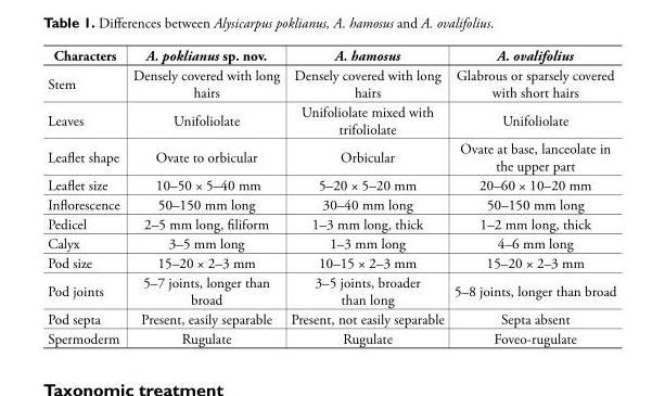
<table><thead><tr><td>Characters</td><td>A. poklianus sp. nov.</td><td>A. hamosus</td><td>A. ovalifolius</td></tr></thead><tbody><tr><td>Stem</td><td>Densely covered with long hairs</td><td>Densely covered with long hairs</td><td>Glabrous or sparsely covered with short hairs</td></tr><tr><td>Leaves</td><td>Unifoliolate</td><td>Unifoliolate mixed with trifoliolate</td><td>Unifoliolate</td></tr><tr><td>Leafl et shape</td><td>Ovate to orbicular</td><td>Orbicular</td><td>Ovate at base, lanceolate in the upper part</td></tr><tr><td>Leafl et size</td><td>10–50 × 5–40 mm</td><td>5–20 × 5–20 mm</td><td>20–60 × 10–20 mm</td></tr><tr><td>Infl orescence</td><td>50–150 mm long</td><td>30–40 mm long</td><td>50–150 mm long</td></tr><tr><td>Pedicel</td><td>2–5 mm long, fi liform</td><td>1–3 mm long, thick</td><td>1–2 mm long, thick</td></tr><tr><td>Calyx</td><td>3–5 mm long</td><td>1–3 mm long</td><td>4–6 mm long</td></tr><tr><td>Pod size</td><td>15–20 × 2–3 mm</td><td>10–15 × 2–3 mm</td><td>15–20 × 2–3 mm</td></tr><tr><td>Pod joints</td><td>5–7 joints, longer than broad</td><td>3–5 joints, broader than long</td><td>5–8 joints, longer than broad</td></tr><tr><td>Pod septa</td><td>Present, easily separable</td><td>Present, not easily separable</td><td>Septa absent</td></tr><tr><td>Spermoderm</td><td>Rugulate</td><td>Rugulate</td><td>Foveo-rugulate</td></tr></tbody></table>